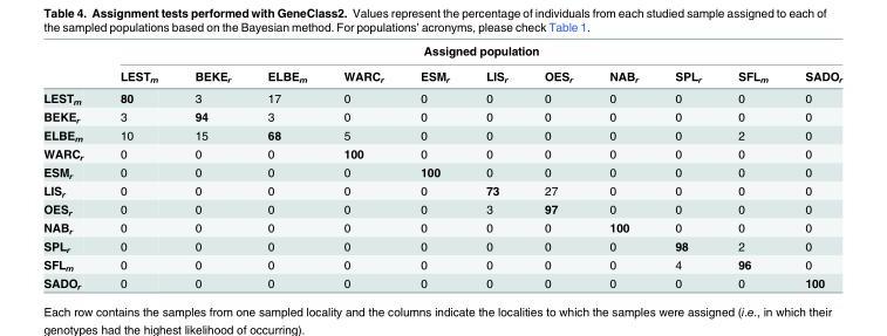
<table><thead><tr><td rowspan="2"></td><td colspan="11">Assigned population</td></tr><tr><td>LEST<sub>m</sub></td><td>BEKE<sub>r</sub></td><td>ELBE<sub>m</sub></td><td>WARC<sub>r</sub></td><td>ESM<sub>r</sub></td><td>LIS<sub>r</sub></td><td>OES<sub>r</sub></td><td>NAB<sub>r</sub></td><td>SPL<sub>r</sub></td><td>SFL<sub>m</sub></td><td>SADO<sub>r</sub></td></tr></thead><tbody><tr><td>LEST<sub>m</sub></td><td>80</td><td>3</td><td>17</td><td>0</td><td>0</td><td>0</td><td>0</td><td>0</td><td>0</td><td>0</td><td>0</td></tr><tr><td>BEKE<sub>r</sub></td><td>3</td><td>94</td><td>3</td><td>0</td><td>0</td><td>0</td><td>0</td><td>0</td><td>0</td><td>0</td><td>0</td></tr><tr><td>ELBE<sub>m</sub></td><td>10</td><td>15</td><td>68</td><td>5</td><td>0</td><td>0</td><td>0</td><td>0</td><td>0</td><td>2</td><td>0</td></tr><tr><td>WARC<sub>r</sub></td><td>0</td><td>0</td><td>0</td><td>100</td><td>0</td><td>0</td><td>0</td><td>0</td><td>0</td><td>0</td><td>0</td></tr><tr><td>ESM<sub>r</sub></td><td>0</td><td>0</td><td>0</td><td>0</td><td>100</td><td>0</td><td>0</td><td>0</td><td>0</td><td>0</td><td>0</td></tr><tr><td>LIS<sub>r</sub></td><td>0</td><td>0</td><td>0</td><td>0</td><td>0</td><td>73</td><td>27</td><td>0</td><td>0</td><td>0</td><td>0</td></tr><tr><td>OES<sub>r</sub></td><td>0</td><td>0</td><td>0</td><td>0</td><td>0</td><td>3</td><td>97</td><td>0</td><td>0</td><td>0</td><td>0</td></tr><tr><td>NAB<sub>r</sub></td><td>0</td><td>0</td><td>0</td><td>0</td><td>0</td><td>0</td><td>0</td><td>100</td><td>0</td><td>0</td><td>0</td></tr><tr><td>SPL<sub>r</sub></td><td>0</td><td>0</td><td>0</td><td>0</td><td>0</td><td>0</td><td>0</td><td>0</td><td>98</td><td>2</td><td>0</td></tr><tr><td>SFL<sub>m</sub></td><td>0</td><td>0</td><td>0</td><td>0</td><td>0</td><td>0</td><td>0</td><td>0</td><td>4</td><td>96</td><td>0</td></tr><tr><td>SADO<sub>r</sub></td><td>0</td><td>0</td><td>0</td><td>0</td><td>0</td><td>0</td><td>0</td><td>0</td><td>0</td><td>0</td><td>100</td></tr></tbody></table>